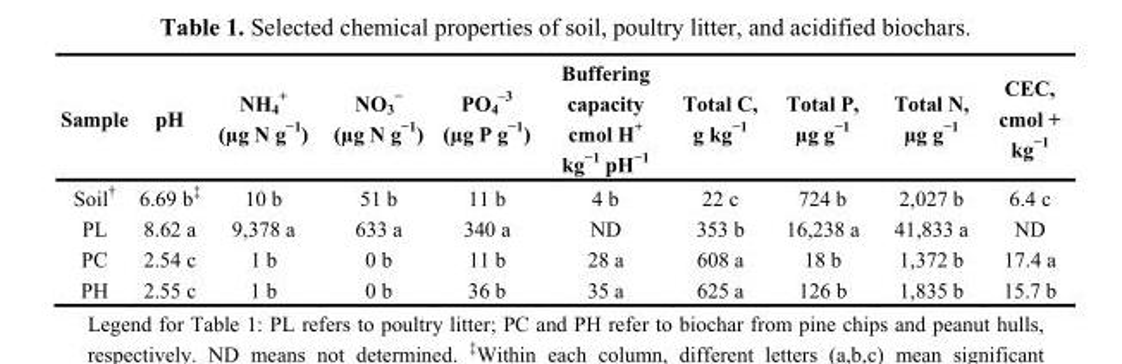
<table><thead><tr><td>Sample</td><td>pH</td><td>NH<sub>4</sub> <sup>+</sup> (µg N g<sup>−1</sup>)</td><td>NO<sub>3</sub> <sup>−</sup> (µg N g<sup>−1</sup>)</td><td>PO<sub>4</sub> <sup>–3</sup> (µg P g<sup>−1</sup>)</td><td>Buffering capacity cmol H<sup>+</sup> kg<sup>−1</sup> pH<sup>−1</sup></td><td>Total C, g kg<sup>−1</sup></td><td>Total P, µg g<sup>−1</sup></td><td>Total N, µg g<sup>−1</sup></td><td>CEC, cmol + kg<sup>−1</sup></td></tr></thead><tbody><tr><td>Soil†</td><td>6.69 b‡</td><td>10 b</td><td>51 b</td><td>11 b</td><td>4 b</td><td>22 c</td><td>724 b</td><td>2,027 b</td><td>6.4 c</td></tr><tr><td>PL</td><td>8.62 a</td><td>9,378 a</td><td>633 a</td><td>340 a</td><td>ND</td><td>353 b</td><td>16,238 a</td><td>41,833 a</td><td>ND</td></tr><tr><td>PC</td><td>2.54 c</td><td>1 b</td><td>0 b</td><td>11 b</td><td>28 a</td><td>608 a</td><td>18 b</td><td>1,372 b</td><td>17.4 a</td></tr><tr><td>PH</td><td>2.55 c</td><td>1 b</td><td>0 b</td><td>36 b</td><td>35 a</td><td>625 a</td><td>126 b</td><td>1,835 b</td><td>15.7 b</td></tr></tbody></table>